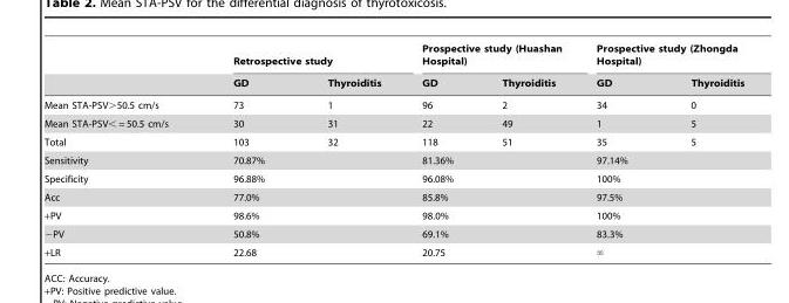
<table><thead><tr><td rowspan="2"></td><td colspan="2">Retrospective study</td><td colspan="2">Prospective study (Huashan Hospital)</td><td colspan="2">Prospective study (Zhongda Hospital)</td></tr><tr><td>GD</td><td>Thyroiditis</td><td>GD</td><td>Thyroiditis</td><td>GD</td><td>Thyroiditis</td></tr></thead><tbody><tr><td>Mean STA-PSV&gt;50.5 cm/s</td><td>73</td><td>1</td><td>96</td><td>2</td><td>34</td><td>0</td></tr><tr><td>Mean STA-PSV&lt; = 50.5 cm/s</td><td>30</td><td>31</td><td>22</td><td>49</td><td>1</td><td>5</td></tr><tr><td>Total</td><td>103</td><td>32</td><td>118</td><td>51</td><td>35</td><td>5</td></tr><tr><td>Sensitivity</td><td colspan="2">70.87%</td><td colspan="2">81.36%</td><td colspan="2">97.14%</td></tr><tr><td>Specificity</td><td colspan="2">96.88%</td><td colspan="2">96.08%</td><td colspan="2">100%</td></tr><tr><td>Acc</td><td colspan="2">77.0%</td><td colspan="2">85.8%</td><td colspan="2">97.5%</td></tr><tr><td>+PV</td><td colspan="2">98.6%</td><td colspan="2">98.0%</td><td colspan="2">100%</td></tr><tr><td>−PV</td><td colspan="2">50.8%</td><td colspan="2">69.1%</td><td colspan="2">83.3%</td></tr><tr><td>+LR</td><td colspan="2">22.68</td><td colspan="2">20.75</td><td colspan="2">‘</td></tr></tbody></table>